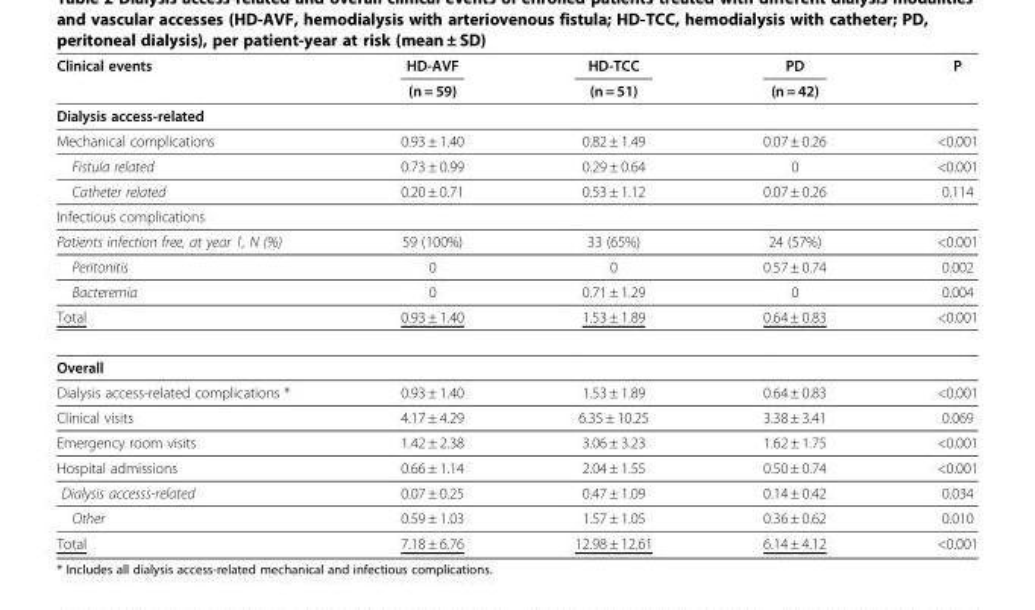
<table><thead><tr><td rowspan="2">Clinical events</td><td rowspan="2">HD-AVF (n = 59)</td><td rowspan="2">HD-TCC (n = 51)</td><td rowspan="2">PD (n = 42)</td><td rowspan="2">P</td></tr><tr></tr></thead><tbody><tr><td colspan="5">Dialysis access-related</td></tr><tr><td>Mechanical complications</td><td>0.93 ± 1.40</td><td>0.82 ± 1.49</td><td>0.07 ± 0.26</td><td>&lt;0.001</td></tr><tr><td>Fistula related</td><td>0.73 ± 0.99</td><td>0.29 ± 0.64</td><td>0</td><td>&lt;0.001</td></tr><tr><td>Catheter related</td><td>0.20 ± 0.71</td><td>0.53 ± 1.12</td><td>0.07 ± 0.26</td><td>0.114</td></tr><tr><td colspan="5">Infectious complications</td></tr><tr><td>Patients infection free, at year 1, N (%)</td><td>59 (100%)</td><td>33 (65%)</td><td>24 (57%)</td><td>&lt;0.001</td></tr><tr><td>Peritonitis</td><td>0</td><td>0</td><td>0.57 ± 0.74</td><td>0.002</td></tr><tr><td>Bacteremia</td><td>0</td><td>0.71 ± 1.29</td><td>0</td><td>0.004</td></tr><tr><td>Total</td><td>0.93 ± 1.40</td><td>1.53 ± 1.89</td><td>0.64 ± 0.83</td><td>&lt;0.001</td></tr><tr><td colspan="5">Overall</td></tr><tr><td>Dialysis access-related complications *</td><td>0.93 ± 1.40</td><td>1.53 ± 1.89</td><td>0.64 ± 0.83</td><td>&lt;0.001</td></tr><tr><td>Clinical visits</td><td>4.17 ± 4.29</td><td>6.35 ± 10.25</td><td>3.38 ± 3.41</td><td>0.069</td></tr><tr><td>Emergency room visits</td><td>1.42 ± 2.38</td><td>3.06 ± 3.23</td><td>1.62 ± 1.75</td><td>&lt;0.001</td></tr><tr><td>Hospital admissions</td><td>0.66 ± 1.14</td><td>2.04 ± 1.55</td><td>0.50 ± 0.74</td><td>&lt;0.001</td></tr><tr><td>Dialysis accesss-related</td><td>0.07 ± 0.25</td><td>0.47 ± 1.09</td><td>0.14 ± 0.42</td><td>0.034</td></tr><tr><td>Other</td><td>0.59 ± 1.03</td><td>1.57 ± 1.05</td><td>0.36 ± 0.62</td><td>0.010</td></tr><tr><td>Total</td><td>7.18 ± 6.76</td><td>12.98 ± 12.61</td><td>6.14 ± 4.12</td><td>&lt;0.001</td></tr></tbody></table>